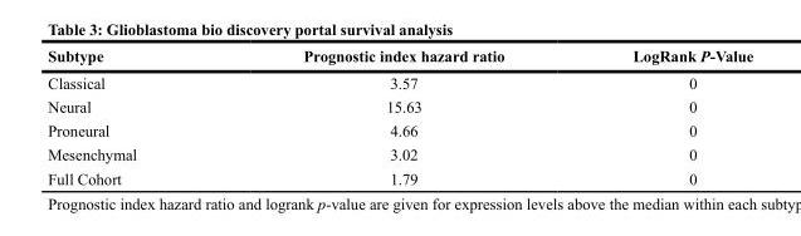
<table><thead><tr><td>Subtype</td><td>Prognostic index hazard ratio</td><td>LogRank P-Value</td></tr></thead><tbody><tr><td>Classical</td><td>3.57</td><td>0</td></tr><tr><td>Neural</td><td>15.63</td><td>0</td></tr><tr><td>Proneural</td><td>4.66</td><td>0</td></tr><tr><td>Mesenchymal</td><td>3.02</td><td>0</td></tr><tr><td>Full Cohort</td><td>1.79</td><td>0</td></tr></tbody></table>